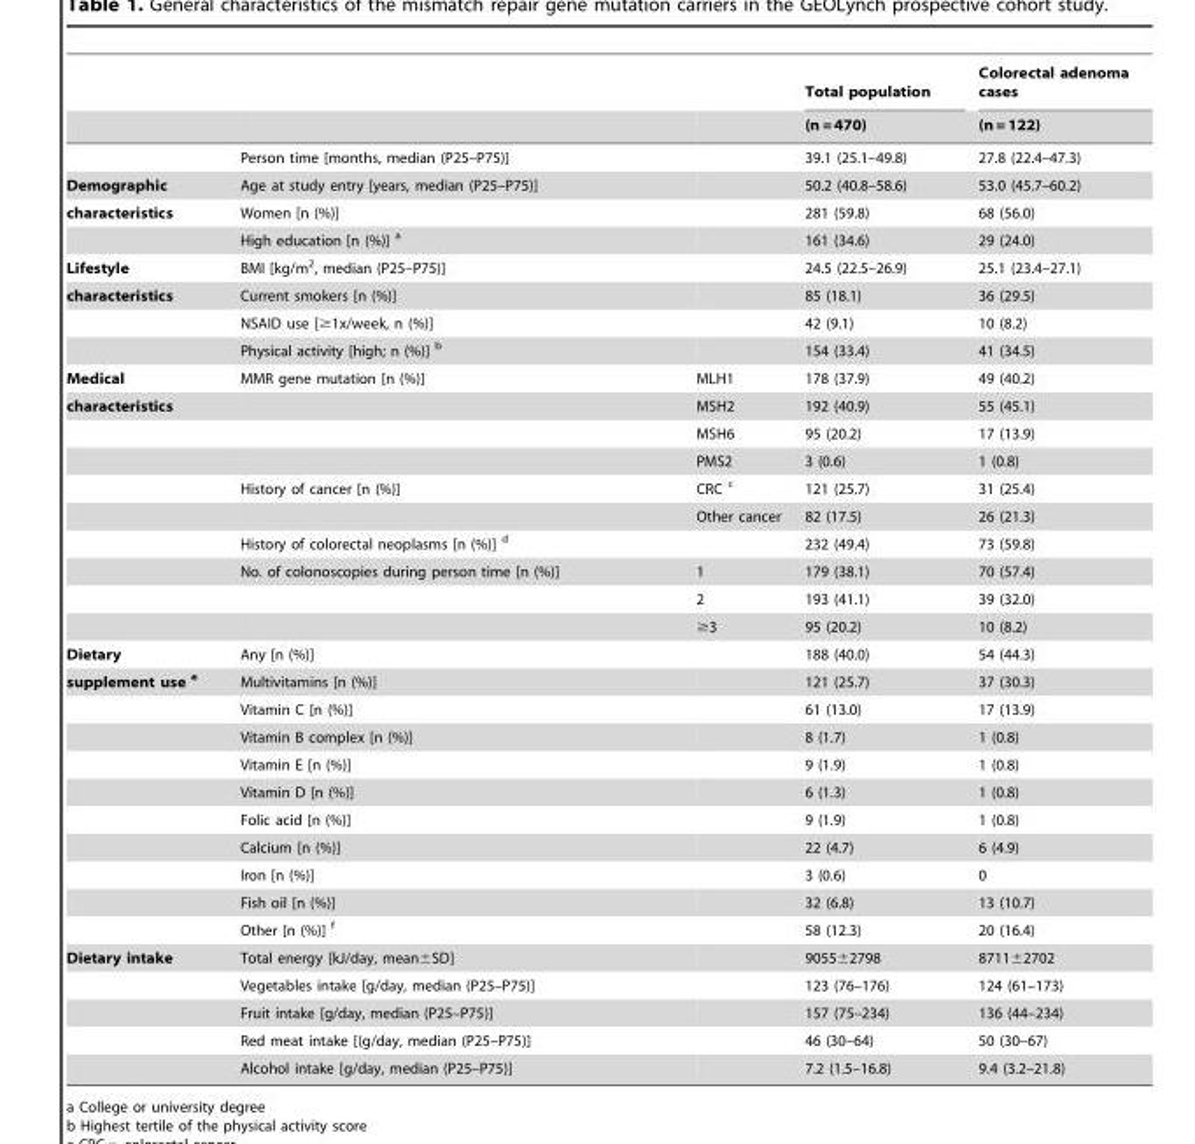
<table><thead><tr><td rowspan="2"></td><td rowspan="2"></td><td rowspan="2"></td><td rowspan="2">Total population (n = 470)</td><td rowspan="2">Colorectal adenoma cases (n = 122)</td></tr><tr></tr></thead><tbody><tr><td></td><td>Person time [months, median (P25–P75)]</td><td></td><td>39.1 (25.1–49.8)</td><td>27.8 (22.4–47.3)</td></tr><tr><td>Demographic</td><td>Age at study entry [years, median (P25–P75)]</td><td></td><td>50.2 (40.8–58.6)</td><td>53.0 (45.7–60.2)</td></tr><tr><td rowspan="2">characteristics</td><td>Women [n (%)]</td><td></td><td>281 (59.8)</td><td>68 (56.0)</td></tr><tr><td>High education [n (%)] <sup>a</sup></td><td></td><td>161 (34.6)</td><td>29 (24.0)</td></tr><tr><td>Lifestyle</td><td>BMI [kg/m<sup>2</sup>, median (P25–P75)]</td><td></td><td>24.5 (22.5–26.9)</td><td>25.1 (23.4–27.1)</td></tr><tr><td rowspan="3">characteristics</td><td>Current smokers [n (%)]</td><td></td><td>85 (18.1)</td><td>36 (29.5)</td></tr><tr><td>NSAID use [≥1x/week, n (%)]</td><td></td><td>42 (9.1)</td><td>10 (8.2)</td></tr><tr><td>Physical activity [high; n (%)] <sup>b</sup></td><td></td><td>154 (33.4)</td><td>41 (34.5)</td></tr><tr><td>Medical</td><td>MMR gene mutation [n (%)]</td><td>MLH1</td><td>178 (37.9)</td><td>49 (40.2)</td></tr><tr><td rowspan="9">characteristics</td><td></td><td>MSH2</td><td>192 (40.9)</td><td>55 (45.1)</td></tr><tr><td></td><td>MSH6</td><td>95 (20.2)</td><td>17 (13.9)</td></tr><tr><td></td><td>PMS2</td><td>3 (0.6)</td><td>1 (0.8)</td></tr><tr><td>History of cancer [n (%)]</td><td>CRC <sup>c</sup></td><td>121 (25.7)</td><td>31 (25.4)</td></tr><tr><td></td><td>Other cancer</td><td>82 (17.5)</td><td>26 (21.3)</td></tr><tr><td>History of colorectal neoplasms [n (%)] <sup>d</sup></td><td></td><td>232 (49.4)</td><td>73 (59.8)</td></tr><tr><td>No. of colonoscopies during person time [n (%)]</td><td>1</td><td>179 (38.1)</td><td>70 (57.4)</td></tr><tr><td></td><td>2</td><td>193 (41.1)</td><td>39 (32.0)</td></tr><tr><td></td><td>≥3</td><td>95 (20.2)</td><td>10 (8.2)</td></tr><tr><td>Dietary</td><td>Any [n (%)]</td><td></td><td>188 (40.0)</td><td>54 (44.3)</td></tr><tr><td rowspan="10">supplement use <sup>e</sup></td><td>Multivitamins [n (%)]</td><td></td><td>121 (25.7)</td><td>37 (30.3)</td></tr><tr><td>Vitamin C [n (%)]</td><td></td><td>61 (13.0)</td><td>17 (13.9)</td></tr><tr><td>Vitamin B complex [n (%)]</td><td></td><td>8 (1.7)</td><td>1 (0.8)</td></tr><tr><td>Vitamin E [n (%)]</td><td></td><td>9 (1.9)</td><td>1 (0.8)</td></tr><tr><td>Vitamin D [n (%)]</td><td></td><td>6 (1.3)</td><td>1 (0.8)</td></tr><tr><td>Folic acid [n (%)]</td><td></td><td>9 (1.9)</td><td>1 (0.8)</td></tr><tr><td>Calcium [n (%)]</td><td></td><td>22 (4.7)</td><td>6 (4.9)</td></tr><tr><td>Iron [n (%)]</td><td></td><td>3 (0.6)</td><td>0</td></tr><tr><td>Fish oil [n (%)]</td><td></td><td>32 (6.8)</td><td>13 (10.7)</td></tr><tr><td>Other [n (%)] <sup>f</sup></td><td></td><td>58 (12.3)</td><td>20 (16.4)</td></tr><tr><td rowspan="5">Dietary intake</td><td>Total energy [kJ/day, mean±SD]</td><td></td><td>9055±2798</td><td>8711±2702</td></tr><tr><td>Vegetables intake [g/day, median (P25–P75)]</td><td></td><td>123 (76–176)</td><td>124 (61–173)</td></tr><tr><td>Fruit intake [g/day, median (P25–P75)]</td><td></td><td>157 (75–234)</td><td>136 (44–234)</td></tr><tr><td>Red meat intake [(g/day, median (P25–P75)]</td><td></td><td>46 (30–64)</td><td>50 (30–67)</td></tr><tr><td>Alcohol intake [g/day, median (P25–P75)]</td><td></td><td>7.2 (1.5–16.8)</td><td>9.4 (3.2–21.8)</td></tr></tbody></table>